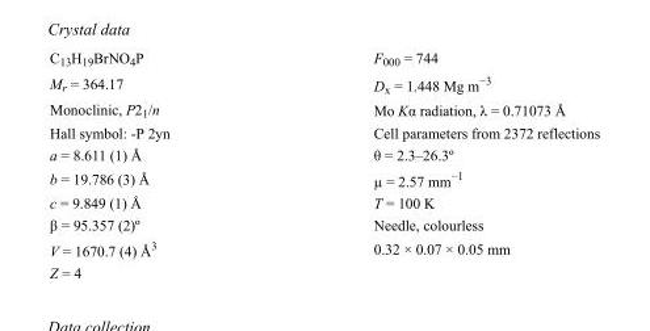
<table><tbody><tr><td>C<sub>13</sub>H<sub>19</sub>BrNO<sub>4</sub>P</td><td>F000 = 744</td></tr><tr><td>M<sub>r</sub> = 364.17</td><td>D<sub>x</sub> = 1.448 Mg m<sup>−3</sup></td></tr><tr><td>Monoclinic, P2<sub>1</sub>/n</td><td>Mo Kα radiation, λ = 0.71073 Å</td></tr><tr><td>Hall symbol: -P 2yn</td><td>Cell parameters from 2372 reflections</td></tr><tr><td>a = 8.611 (1) Å</td><td>θ = 2.3–26.3º</td></tr><tr><td>b = 19.786 (3) Å</td><td>µ = 2.57 mm<sup>−1</sup></td></tr><tr><td>c = 9.849 (1) Å</td><td>T = 100 K</td></tr><tr><td>β = 95.357 (2)º</td><td>Needle, colourless</td></tr><tr><td>V = 1670.7 (4) Å<sup>3</sup></td><td>0.32 × 0.07 × 0.05 mm</td></tr><tr><td>Z = 4</td><td></td></tr></tbody></table>